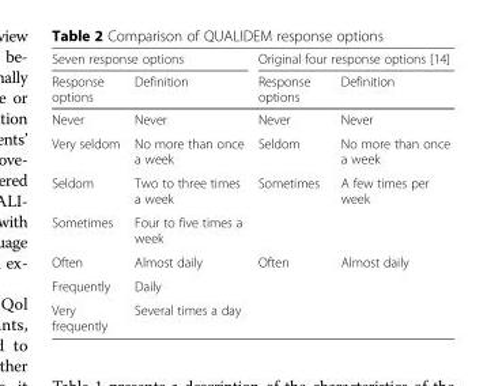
<table><thead><tr><td colspan="2">Seven response options</td><td colspan="2">Original four response options [14]</td></tr><tr><td>Response options</td><td>Definition</td><td>Response options</td><td>Definition</td></tr></thead><tbody><tr><td>Never</td><td>Never</td><td>Never</td><td>Never</td></tr><tr><td>Very seldom</td><td>No more than once a week</td><td>Seldom</td><td>No more than once a week</td></tr><tr><td>Seldom</td><td>Two to three times a week</td><td rowspan="2">Sometimes</td><td rowspan="2">A few times per week</td></tr><tr><td>Sometimes</td><td>Four to five times a week</td></tr><tr><td>Often</td><td>Almost daily</td><td rowspan="3">Often</td><td rowspan="3">Almost daily</td></tr><tr><td>Frequently</td><td>Daily</td></tr><tr><td>Very frequently</td><td>Several times a day</td></tr></tbody></table>